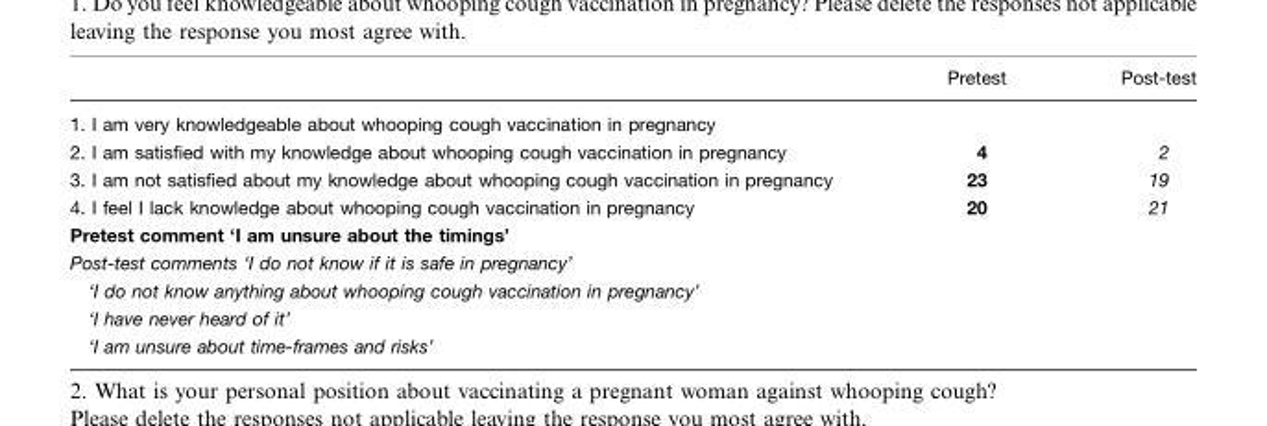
<table><thead><tr><td></td><td>Pretest</td><td>Post-test</td></tr></thead><tbody><tr><td colspan="3">1. I am very knowledgeable about whooping cough vaccination in pregnancy</td></tr><tr><td>2. I am satisfied with my knowledge about whooping cough vaccination in pregnancy</td><td>4</td><td>2</td></tr><tr><td>3. I am not satisfied about my knowledge about whooping cough vaccination in pregnancy</td><td>23</td><td>19</td></tr><tr><td>4. I feel I lack knowledge about whooping cough vaccination in pregnancy</td><td>20</td><td>21</td></tr><tr><td colspan="3">Pretest comment ‘I am unsure about the timings’</td></tr><tr><td colspan="3">Post-test comments ‘I do not know if it is safe in pregnancy’ ‘I do not know anything about whooping cough vaccination in pregnancy’ ‘I have never heard of it’ ‘I am unsure about time-frames and risks’</td></tr></tbody></table>